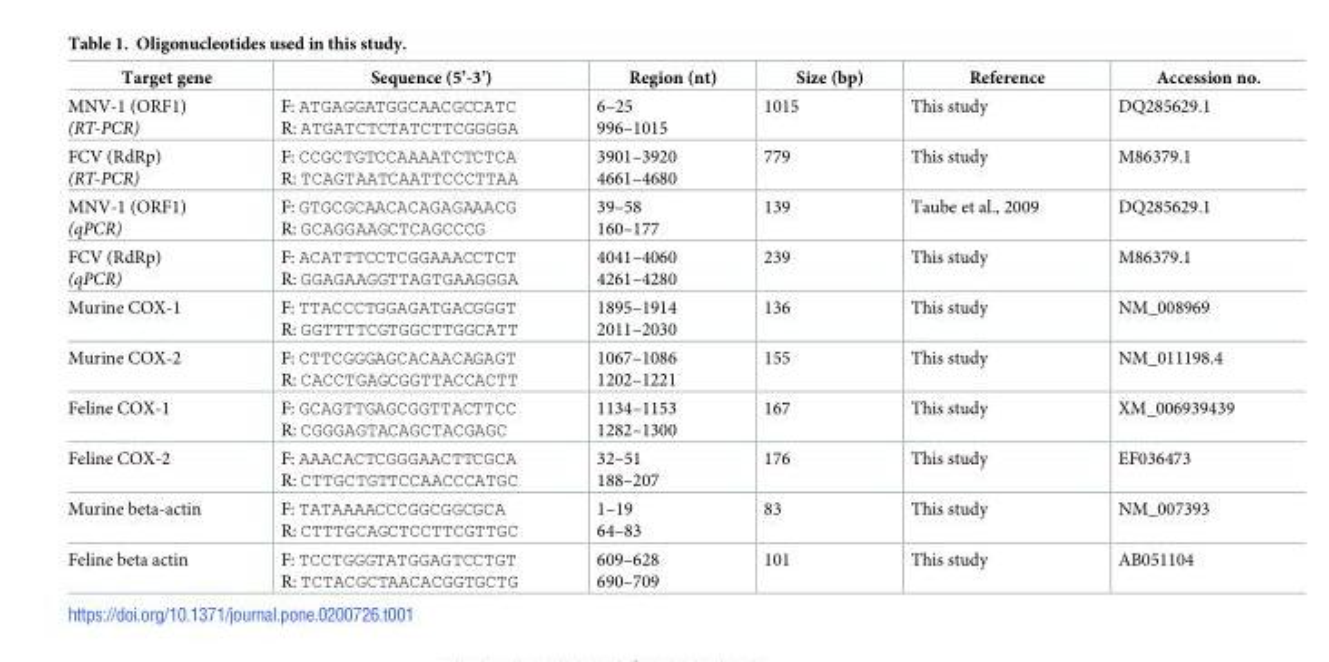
<table><tbody><tr><td>Target gene</td><td>Sequence (5’-3’)</td><td>Region (nt)</td><td>Size (bp)</td><td>Reference</td><td>Accession no.</td></tr><tr><td>MNV-1 (ORF1) (RT-PCR)</td><td>F: ATGAGGATGGCAACGCCATC R: ATGATCTCTATCTTCGGGGA</td><td>6–25 996–1015</td><td>1015</td><td>This study</td><td>DQ285629.1</td></tr><tr><td>FCV (RdRp) (RT-PCR)</td><td>F: CCGCTGTCCAAAATCTCTCA R: TCAGTAATCAATTCCCTTAA</td><td>3901–3920 4661–4680</td><td>779</td><td>This study</td><td>M86379.1</td></tr><tr><td>MNV-1 (ORF1) (qPCR)</td><td>F: GTGCGCAACACAGAGAAACG R: GCAGGAAGCTCAGCCCG</td><td>39–58 160–177</td><td>139</td><td>Taube et al., 2009</td><td>DQ285629.1</td></tr><tr><td>FCV (RdRp) (qPCR)</td><td>F: ACATTTCCTCGGAAACCTCT R: GGAGAAGGTTAGTGAAGGGA</td><td>4041–4060 4261–4280</td><td>239</td><td>This study</td><td>M86379.1</td></tr><tr><td>Murine COX-1</td><td>F: TTACCCTGGAGATGACGGGT R: GGTTTTCGTGGCTTGGCATT</td><td>1895–1914 2011–2030</td><td>136</td><td>This study</td><td>NM_008969</td></tr><tr><td>Murine COX-2</td><td>F: CTTCGGGAGCACAACAGAGT R: CACCTGAGCGGTTACCACTT</td><td>1067–1086 1202–1221</td><td>155</td><td>This study</td><td>NM_011198.4</td></tr><tr><td>Feline COX-1</td><td>F: GCAGTTGAGCGGTTACTTCC R: CGGGAGTACAGCTACGAGC</td><td>1134–1153 1282–1300</td><td>167</td><td>This study</td><td>XM_006939439</td></tr><tr><td>Feline COX-2</td><td>F: AAACACTCGGGAACTTCGCA R: CTTGCTGTTCCAACCCATGC</td><td>32–51 188–207</td><td>176</td><td>This study</td><td>EF036473</td></tr><tr><td>Murine beta-actin</td><td>F: TATAAAACCCGGCGGCGCA R: CTTTGCAGCTCCTTCGTTGC</td><td>1–19 64–83</td><td>83</td><td>This study</td><td>NM_007393</td></tr><tr><td>Feline beta actin</td><td>F: TCCTGGGTATGGAGTCCTGT R: TCTACGCTAACACGGTGCTG</td><td>609–628 690–709</td><td>101</td><td>This study</td><td>AB051104</td></tr></tbody></table>